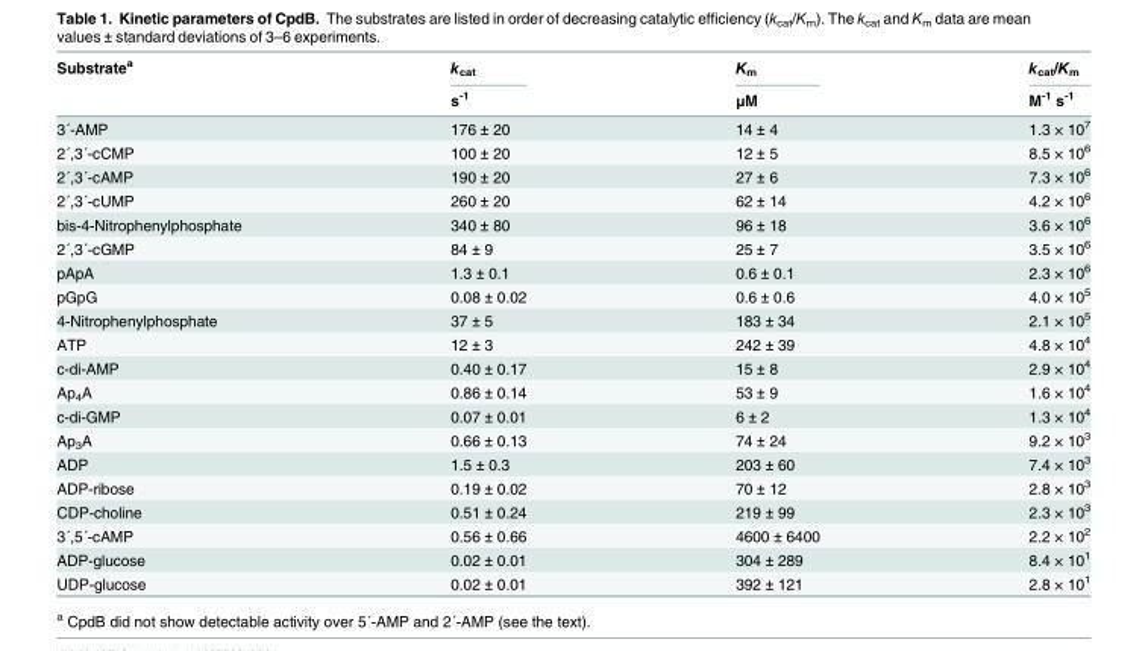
<table><thead><tr><td rowspan="2">Substrate<sup>a</sup></td><td rowspan="2">k<sub>cat</sub> s<sup>-1</sup></td><td rowspan="2">K<sub>m</sub> μM</td><td rowspan="2">k<sub>cat</sub>/K<sub>m</sub> M<sup>-1</sup> s<sup>-1</sup></td></tr><tr></tr></thead><tbody><tr><td>3´-AMP</td><td>176 ± 20</td><td>14 ± 4</td><td>1.3 × 10<sup>7</sup></td></tr><tr><td>2´,3´-cCMP</td><td>100 ± 20</td><td>12 ± 5</td><td>8.5 × 10<sup>6</sup></td></tr><tr><td>2´,3´-cAMP</td><td>190 ± 20</td><td>27 ± 6</td><td>7.3 × 10<sup>6</sup></td></tr><tr><td>2´,3´-cUMP</td><td>260 ± 20</td><td>62 ± 14</td><td>4.2 × 10<sup>6</sup></td></tr><tr><td>bis-4-Nitrophenylphosphate</td><td>340 ± 80</td><td>96 ± 18</td><td>3.6 × 10<sup>6</sup></td></tr><tr><td>2´,3´-cGMP</td><td>84 ± 9</td><td>25 ± 7</td><td>3.5 × 10<sup>6</sup></td></tr><tr><td>pApA</td><td>1.3 ± 0.1</td><td>0.6 ± 0.1</td><td>2.3 × 10<sup>6</sup></td></tr><tr><td>pGpG</td><td>0.08 ± 0.02</td><td>0.6 ± 0.6</td><td>4.0 × 10<sup>5</sup></td></tr><tr><td>4-Nitrophenylphosphate</td><td>37 ± 5</td><td>183 ± 34</td><td>2.1 × 10<sup>5</sup></td></tr><tr><td>ATP</td><td>12 ± 3</td><td>242 ± 39</td><td>4.8 × 10<sup>4</sup></td></tr><tr><td>c-di-AMP</td><td>0.40 ± 0.17</td><td>15 ± 8</td><td>2.9 × 10<sup>4</sup></td></tr><tr><td>Ap<sub>4</sub>A</td><td>0.86 ± 0.14</td><td>53 ± 9</td><td>1.6 × 10<sup>4</sup></td></tr><tr><td>c-di-GMP</td><td>0.07 ± 0.01</td><td>6 ± 2</td><td>1.3 × 10<sup>4</sup></td></tr><tr><td>Ap<sub>3</sub>A</td><td>0.66 ± 0.13</td><td>74 ± 24</td><td>9.2 × 10<sup>3</sup></td></tr><tr><td>ADP</td><td>1.5 ± 0.3</td><td>203 ± 60</td><td>7.4 × 10<sup>3</sup></td></tr><tr><td>ADP-ribose</td><td>0.19 ± 0.02</td><td>70 ± 12</td><td>2.8 × 10<sup>3</sup></td></tr><tr><td>CDP-choline</td><td>0.51 ± 0.24</td><td>219 ± 99</td><td>2.3 × 10<sup>3</sup></td></tr><tr><td>3´,5´-cAMP</td><td>0.56 ± 0.66</td><td>4600 ± 6400</td><td>2.2 × 10<sup>2</sup></td></tr><tr><td>ADP-glucose</td><td>0.02 ± 0.01</td><td>304 ± 289</td><td>8.4 × 10<sup>1</sup></td></tr><tr><td>UDP-glucose</td><td>0.02 ± 0.01</td><td>392 ± 121</td><td>2.8 × 10<sup>1</sup></td></tr></tbody></table>